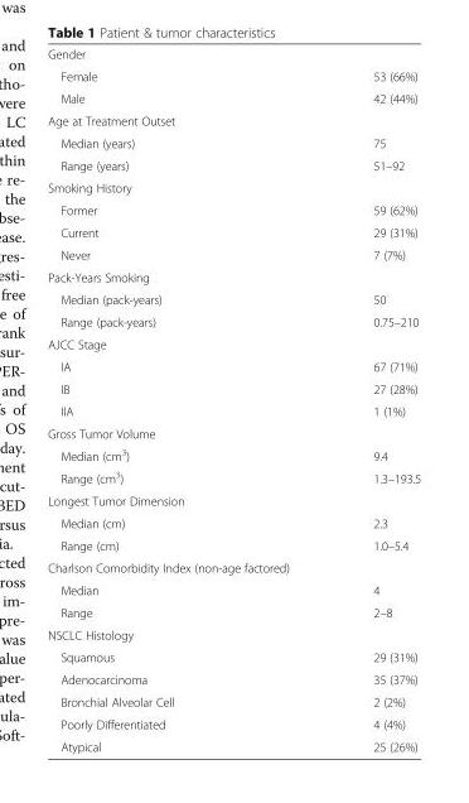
<table><tbody><tr><td colspan="2">Gender</td></tr><tr><td>Female</td><td>53 (66%)</td></tr><tr><td>Male</td><td>42 (44%)</td></tr><tr><td colspan="2">Age at Treatment Outset</td></tr><tr><td>Median (years)</td><td>75</td></tr><tr><td>Range (years)</td><td>51–92</td></tr><tr><td colspan="2">Smoking History</td></tr><tr><td>Former</td><td>59 (62%)</td></tr><tr><td>Current</td><td>29 (31%)</td></tr><tr><td>Never</td><td>7 (7%)</td></tr><tr><td colspan="2">Pack-Years Smoking</td></tr><tr><td>Median (pack-years)</td><td>50</td></tr><tr><td>Range (pack-years)</td><td>0.75–210</td></tr><tr><td colspan="2">AJCC Stage</td></tr><tr><td>IA</td><td>67 (71%)</td></tr><tr><td>IB</td><td>27 (28%)</td></tr><tr><td>IIA</td><td>1 (1%)</td></tr><tr><td colspan="2">Gross Tumor Volume</td></tr><tr><td>Median (cm<sup>3</sup>)</td><td>9.4</td></tr><tr><td>Range (cm<sup>3</sup>)</td><td>1.3–193.5</td></tr><tr><td colspan="2">Longest Tumor Dimension</td></tr><tr><td>Median (cm)</td><td>2.3</td></tr><tr><td>Range (cm)</td><td>1.0–5.4</td></tr><tr><td colspan="2">Charlson Comorbidity Index (non-age factored)</td></tr><tr><td>Median</td><td>4</td></tr><tr><td>Range</td><td>2–8</td></tr><tr><td colspan="2">NSCLC Histology</td></tr><tr><td>Squamous</td><td>29 (31%)</td></tr><tr><td>Adenocarcinoma</td><td>35 (37%)</td></tr><tr><td>Bronchial Alveolar Cell</td><td>2 (2%)</td></tr><tr><td>Poorly Differentiated</td><td>4 (4%)</td></tr><tr><td>Atypical</td><td>25 (26%)</td></tr></tbody></table>